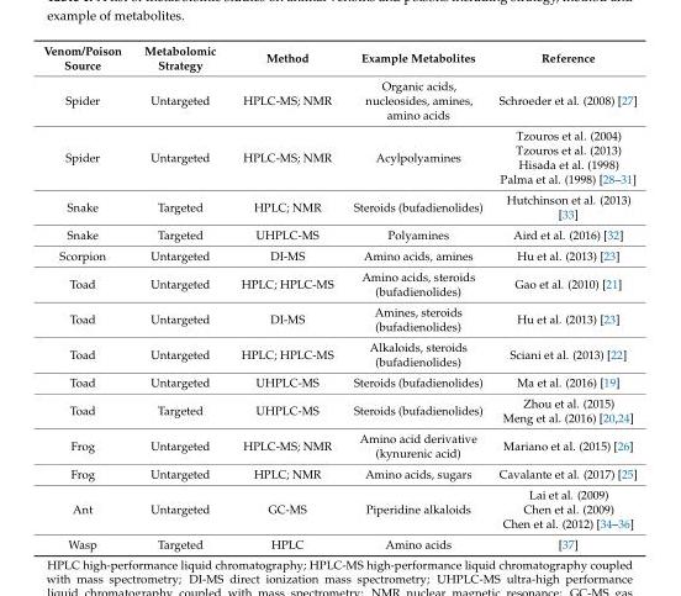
<table><thead><tr><td>Venom/Poison Source</td><td>Metabolomic Strategy</td><td>Method</td><td>Example Metabolites</td><td>Reference</td></tr></thead><tbody><tr><td>Spider</td><td>Untargeted</td><td>HPLC-MS; NMR</td><td>Organic acids, nucleosides, amines, amino acids</td><td>Schroeder et al. (2008) [27]</td></tr><tr><td>Spider</td><td>Untargeted</td><td>HPLC-MS; NMR</td><td>Acylpolyamines</td><td>Tzouros et al. (2004) Tzouros et al. (2013) Hisada et al. (1998) Palma et al. (1998) [28–31]</td></tr><tr><td>Snake</td><td>Targeted</td><td>HPLC; NMR</td><td>Steroids (bufadienolides)</td><td>Hutchinson et al. (2013) [33]</td></tr><tr><td>Snake</td><td>Targeted</td><td>UHPLC-MS</td><td>Polyamines</td><td>Aird et al. (2016) [32]</td></tr><tr><td>Scorpion</td><td>Untargeted</td><td>DI-MS</td><td>Amino acids, amines</td><td>Hu et al. (2013) [23]</td></tr><tr><td>Toad</td><td>Untargeted</td><td>HPLC; HPLC-MS</td><td>Amino acids, steroids (bufadienolides)</td><td>Gao et al. (2010) [21]</td></tr><tr><td>Toad</td><td>Untargeted</td><td>DI-MS</td><td>Amines, steroids (bufadienolides)</td><td>Hu et al. (2013) [23]</td></tr><tr><td>Toad</td><td>Untargeted</td><td>HPLC; HPLC-MS</td><td>Alkaloids, steroids (bufadienolides)</td><td>Sciani et al. (2013) [22]</td></tr><tr><td>Toad</td><td>Untargeted</td><td>UHPLC-MS</td><td>Steroids (bufadienolides)</td><td>Ma et al. (2016) [19]</td></tr><tr><td>Toad</td><td>Targeted</td><td>UHPLC-MS</td><td>Steroids (bufadienolides)</td><td>Zhou et al. (2015) Meng et al. (2016) [20,24]</td></tr><tr><td>Frog</td><td>Untargeted</td><td>HPLC-MS; NMR</td><td>Amino acid derivative (kynurenic acid)</td><td>Mariano et al. (2015) [26]</td></tr><tr><td>Frog</td><td>Untargeted</td><td>HPLC; NMR</td><td>Amino acids, sugars</td><td>Cavalante et al. (2017) [25]</td></tr><tr><td>Ant</td><td>Untargeted</td><td>GC-MS</td><td>Piperidine alkaloids</td><td>Lai et al. (2009) Chen et al. (2009) Chen et al. (2012) [34–36]</td></tr><tr><td>Wasp</td><td>Targeted</td><td>HPLC</td><td>Amino acids</td><td>[37]</td></tr></tbody></table>